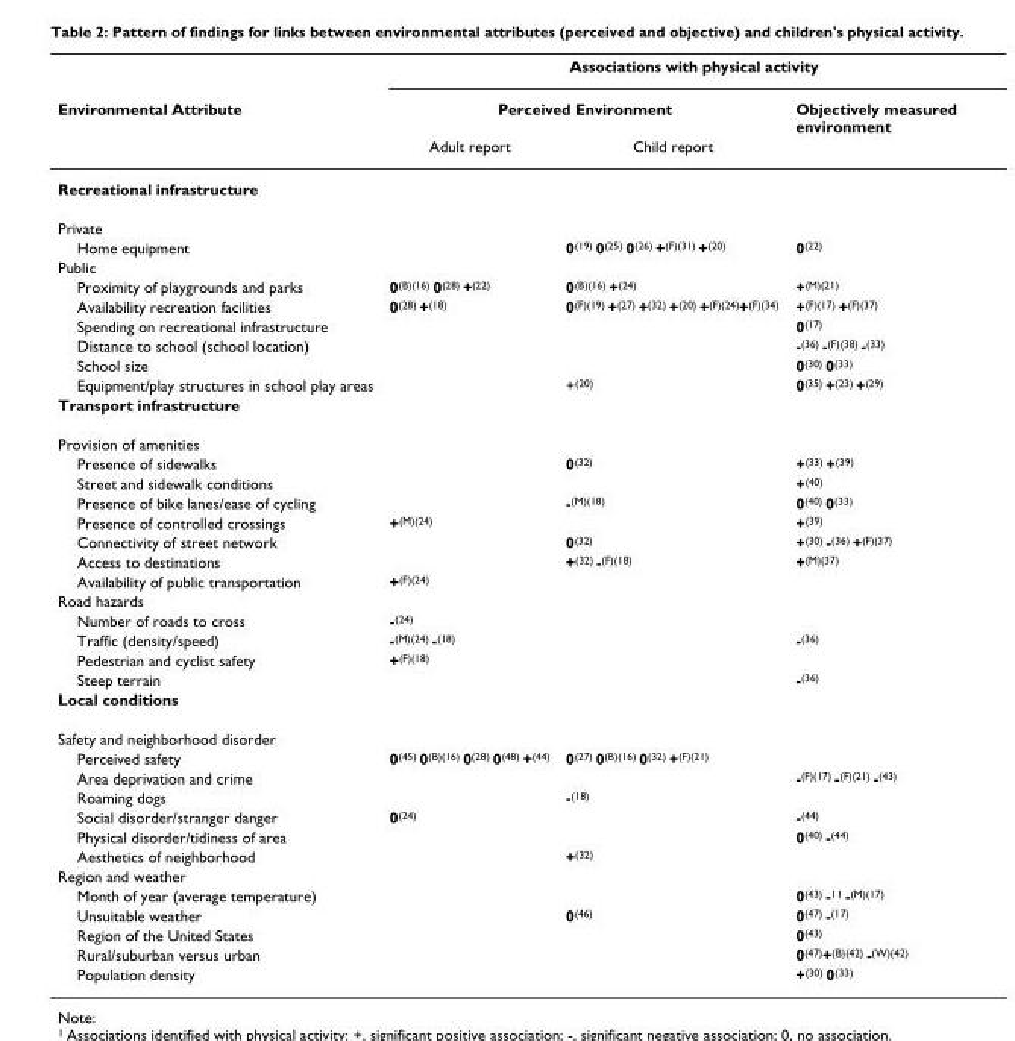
<table><thead><tr><td rowspan="3">Environmental Attribute</td><td colspan="3">Associations with physical activity</td></tr><tr><td colspan="2">Perceived Environment</td><td rowspan="2">Objectively measured environment</td></tr><tr><td>Adult report</td><td>Child report</td></tr></thead><tbody><tr><td colspan="4">Recreational infrastructure</td></tr><tr><td colspan="4">Private</td></tr><tr><td>Home equipment</td><td></td><td>0<sup>(19)</sup> 0<sup>(25)</sup> 0<sup>(26)</sup> +<sup>(F)(31)</sup> +<sup>(20)</sup></td><td>0<sup>(22)</sup></td></tr><tr><td colspan="4">Public</td></tr><tr><td>Proximity of playgrounds and parks</td><td>0<sup>(B)(16)</sup> 0<sup>(28)</sup> +<sup>(22)</sup></td><td>0<sup>(B)(16)</sup> +<sup>(24)</sup></td><td>+<sup>(M)(21)</sup></td></tr><tr><td>Availability recreation facilities</td><td>0<sup>(28)</sup> +<sup>(18)</sup></td><td>0<sup>(F)(19)</sup> +<sup>(27)</sup> +<sup>(32)</sup> +<sup>(20)</sup> +<sup>(F)(24)</sup>+<sup>(F)(34)</sup></td><td>+<sup>(F)(17)</sup> +<sup>(F)(37)</sup></td></tr><tr><td>Spending on recreational infrastructure</td><td></td><td></td><td>0<sup>(17)</sup></td></tr><tr><td>Distance to school (school location)</td><td></td><td></td><td>-<sup>(36)</sup> -<sup>(F)(38)</sup> -<sup>(33)</sup></td></tr><tr><td>School size</td><td></td><td></td><td>0<sup>(30)</sup> 0<sup>(33)</sup></td></tr><tr><td>Equipment/play structures in school play areas</td><td></td><td>+<sup>(20)</sup></td><td>0<sup>(35)</sup> +<sup>(23)</sup> +<sup>(29)</sup></td></tr><tr><td colspan="4">Transport infrastructure</td></tr><tr><td colspan="4">Provision of amenities</td></tr><tr><td>Presence of sidewalks</td><td></td><td>0<sup>(32)</sup></td><td>+<sup>(33)</sup> +<sup>(39)</sup></td></tr><tr><td>Street and sidewalk conditions</td><td></td><td></td><td>+<sup>(40)</sup></td></tr><tr><td>Presence of bike lanes/ease of cycling</td><td></td><td>-<sup>(M)(18)</sup></td><td>0<sup>(40)</sup> 0<sup>(33)</sup></td></tr><tr><td>Presence of controlled crossings</td><td>+<sup>(M)(24)</sup></td><td></td><td>+<sup>(39)</sup></td></tr><tr><td>Connectivity of street network</td><td></td><td>0<sup>(32)</sup></td><td>+<sup>(30)</sup> -<sup>(36)</sup> +<sup>(F)(37)</sup></td></tr><tr><td>Access to destinations</td><td></td><td>+<sup>(32)</sup> -<sup>(F)(18)</sup></td><td>+<sup>(M)(37)</sup></td></tr><tr><td>Availability of public transportation</td><td>+<sup>(F)(24)</sup></td><td></td><td></td></tr><tr><td colspan="4">Road hazards</td></tr><tr><td>Number of roads to cross</td><td>-<sup>(24)</sup></td><td></td><td></td></tr><tr><td>Traffic (density/speed)</td><td>-<sup>(M)(24)</sup> -<sup>(18)</sup></td><td></td><td>-<sup>(36)</sup></td></tr><tr><td>Pedestrian and cyclist safety</td><td>+<sup>(F)(18)</sup></td><td></td><td></td></tr><tr><td>Steep terrain</td><td></td><td></td><td>-<sup>(36)</sup></td></tr><tr><td colspan="4">Local conditions</td></tr><tr><td colspan="4">Safety and neighborhood disorder</td></tr><tr><td>Perceived safety</td><td>0<sup>(45)</sup> 0<sup>(B)(16)</sup> 0<sup>(28)</sup> 0<sup>(48)</sup> +<sup>(44)</sup></td><td>0<sup>(27)</sup> 0<sup>(B)(16)</sup> 0<sup>(32)</sup> +<sup>(F)(21)</sup></td><td></td></tr><tr><td>Area deprivation and crime</td><td></td><td></td><td>-<sup>(F)(17)</sup> -<sup>(F)(21)</sup> -<sup>(43)</sup></td></tr><tr><td>Roaming dogs</td><td></td><td>-<sup>(18)</sup></td><td></td></tr><tr><td>Social disorder/stranger danger</td><td>0<sup>(24)</sup></td><td></td><td>-<sup>(44)</sup></td></tr><tr><td>Physical disorder/tidiness of area</td><td></td><td></td><td>0<sup>(40)</sup> -<sup>(44)</sup></td></tr><tr><td>Aesthetics of neighborhood</td><td></td><td>+<sup>(32)</sup></td><td></td></tr><tr><td colspan="4">Region and weather</td></tr><tr><td>Month of year (average temperature)</td><td></td><td></td><td>0<sup>(43)</sup> -<sup>11</sup> -<sup>(M)(17)</sup></td></tr><tr><td>Unsuitable weather</td><td></td><td>0<sup>(46)</sup></td><td>0<sup>(47)</sup> -<sup>(17)</sup></td></tr><tr><td>Region of the United States</td><td></td><td></td><td>0<sup>(43)</sup></td></tr><tr><td>Rural/suburban versus urban</td><td></td><td></td><td>0<sup>(47)</sup>+<sup>(B)(42)</sup> -<sup>(W)(42)</sup></td></tr><tr><td>Population density</td><td></td><td></td><td>+<sup>(30)</sup> 0<sup>(33)</sup></td></tr></tbody></table>